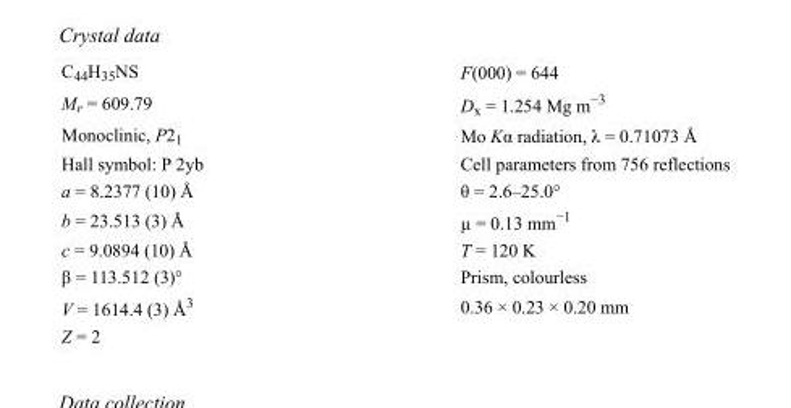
<table><tbody><tr><td>C<sub>44</sub>H<sub>35</sub>NS</td><td>F(000) = 644</td></tr><tr><td>M<sub>r</sub> = 609.79</td><td>D<sub>x</sub> = 1.254 Mg m<sup>−3</sup></td></tr><tr><td>Monoclinic, P2<sub>1</sub></td><td>Mo Kα radiation, λ = 0.71073 Å</td></tr><tr><td>Hall symbol: P 2yb</td><td>Cell parameters from 756 reflections</td></tr><tr><td>a = 8.2377 (10) Å</td><td>θ = 2.6–25.0°</td></tr><tr><td>b = 23.513 (3) Å</td><td>µ = 0.13 mm<sup>−1</sup></td></tr><tr><td>c = 9.0894 (10) Å</td><td>T = 120 K</td></tr><tr><td>β = 113.512 (3)°</td><td>Prism, colourless</td></tr><tr><td>V = 1614.4 (3) Å<sup>3</sup></td><td>0.36 × 0.23 × 0.20 mm</td></tr><tr><td>Z = 2</td><td></td></tr></tbody></table>